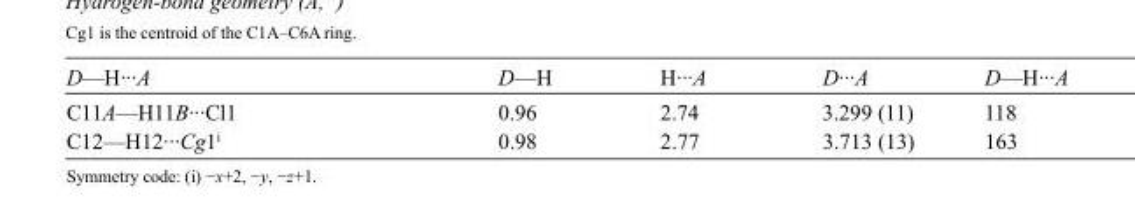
<table><tbody><tr><td>D—H···A</td><td>D—H</td><td>H···A</td><td>D···A</td><td>D—H···A</td></tr><tr><td>C11A—H11B···Cl1</td><td>0.96</td><td>2.74</td><td>3.299 (11)</td><td>118</td></tr><tr><td>C12—H12···Cg1<sup>i</sup></td><td>0.98</td><td>2.77</td><td>3.713 (13)</td><td>163</td></tr></tbody></table>